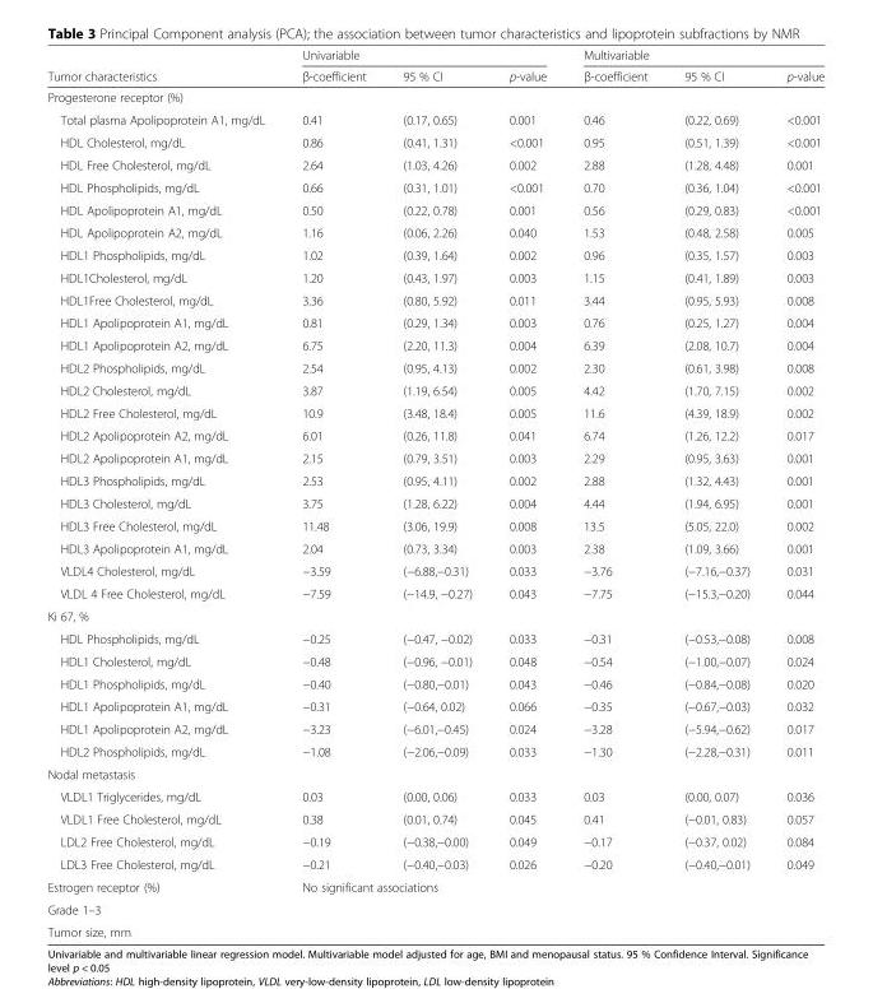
<table><thead><tr><td rowspan="2">Tumor characteristics</td><td colspan="3">Univariable</td><td colspan="3">Multivariable</td></tr><tr><td>β-coefficient</td><td>95 % CI</td><td>p-value</td><td>β-coefficient</td><td>95 % CI</td><td>p-value</td></tr></thead><tbody><tr><td colspan="7">Progesterone receptor (%)</td></tr><tr><td>Total plasma Apolipoprotein A1, mg/dL</td><td>0.41</td><td>(0.17, 0.65)</td><td>0.001</td><td>0.46</td><td>(0.22, 0.69)</td><td>&lt;0.001</td></tr><tr><td>HDL Cholesterol, mg/dL</td><td>0.86</td><td>(0.41, 1.31)</td><td>&lt;0.001</td><td>0.95</td><td>(0.51, 1.39)</td><td>&lt;0.001</td></tr><tr><td>HDL Free Cholesterol, mg/dL</td><td>2.64</td><td>(1.03, 4.26)</td><td>0.002</td><td>2.88</td><td>(1.28, 4.48)</td><td>0.001</td></tr><tr><td>HDL Phospholipids, mg/dL</td><td>0.66</td><td>(0.31, 1.01)</td><td>&lt;0.001</td><td>0.70</td><td>(0.36, 1.04)</td><td>&lt;0.001</td></tr><tr><td>HDL Apolipoprotein A1, mg/dL</td><td>0.50</td><td>(0.22, 0.78)</td><td>0.001</td><td>0.56</td><td>(0.29, 0.83)</td><td>&lt;0.001</td></tr><tr><td>HDL Apolipoprotein A2, mg/dL</td><td>1.16</td><td>(0.06, 2.26)</td><td>0.040</td><td>1.53</td><td>(0.48, 2.58)</td><td>0.005</td></tr><tr><td>HDL1 Phospholipids, mg/dL</td><td>1.02</td><td>(0.39, 1.64)</td><td>0.002</td><td>0.96</td><td>(0.35, 1.57)</td><td>0.003</td></tr><tr><td>HDL1Cholesterol, mg/dL</td><td>1.20</td><td>(0.43, 1.97)</td><td>0.003</td><td>1.15</td><td>(0.41, 1.89)</td><td>0.003</td></tr><tr><td>HDL1Free Cholesterol, mg/dL</td><td>3.36</td><td>(0.80, 5.92)</td><td>0.011</td><td>3.44</td><td>(0.95, 5.93)</td><td>0.008</td></tr><tr><td>HDL1 Apolipoprotein A1, mg/dL</td><td>0.81</td><td>(0.29, 1.34)</td><td>0.003</td><td>0.76</td><td>(0.25, 1.27)</td><td>0.004</td></tr><tr><td>HDL1 Apolipoprotein A2, mg/dL</td><td>6.75</td><td>(2.20, 11.3)</td><td>0.004</td><td>6.39</td><td>(2.08, 10.7)</td><td>0.004</td></tr><tr><td>HDL2 Phospholipids, mg/dL</td><td>2.54</td><td>(0.95, 4.13)</td><td>0.002</td><td>2.30</td><td>(0.61, 3.98)</td><td>0.008</td></tr><tr><td>HDL2 Cholesterol, mg/dL</td><td>3.87</td><td>(1.19, 6.54)</td><td>0.005</td><td>4.42</td><td>(1.70, 7.15)</td><td>0.002</td></tr><tr><td>HDL2 Free Cholesterol, mg/dL</td><td>10.9</td><td>(3.48, 18.4)</td><td>0.005</td><td>11.6</td><td>(4.39, 18.9)</td><td>0.002</td></tr><tr><td>HDL2 Apolipoprotein A2, mg/dL</td><td>6.01</td><td>(0.26, 11.8)</td><td>0.041</td><td>6.74</td><td>(1.26, 12.2)</td><td>0.017</td></tr><tr><td>HDL2 Apolipoprotein A1, mg/dL</td><td>2.15</td><td>(0.79, 3.51)</td><td>0.003</td><td>2.29</td><td>(0.95, 3.63)</td><td>0.001</td></tr><tr><td>HDL3 Phospholipids, mg/dL</td><td>2.53</td><td>(0.95, 4.11)</td><td>0.002</td><td>2.88</td><td>(1.32, 4.43)</td><td>0.001</td></tr><tr><td>HDL3 Cholesterol, mg/dL</td><td>3.75</td><td>(1.28, 6.22)</td><td>0.004</td><td>4.44</td><td>(1.94, 6.95)</td><td>0.001</td></tr><tr><td>HDL3 Free Cholesterol, mg/dL</td><td>11.48</td><td>(3.06, 19.9)</td><td>0.008</td><td>13.5</td><td>(5.05, 22.0)</td><td>0.002</td></tr><tr><td>HDL3 Apolipoprotein A1, mg/dL</td><td>2.04</td><td>(0.73, 3.34)</td><td>0.003</td><td>2.38</td><td>(1.09, 3.66)</td><td>0.001</td></tr><tr><td>VLDL4 Cholesterol, mg/dL</td><td>−3.59</td><td>(−6.88,−0.31)</td><td>0.033</td><td>−3.76</td><td>(−7.16,−0.37)</td><td>0.031</td></tr><tr><td>VLDL 4 Free Cholesterol, mg/dL</td><td>−7.59</td><td>(−14.9, −0.27)</td><td>0.043</td><td>−7.75</td><td>(−15.3,−0.20)</td><td>0.044</td></tr><tr><td colspan="7">Ki 67, %</td></tr><tr><td>HDL Phospholipids, mg/dL</td><td>−0.25</td><td>(−0.47, −0.02)</td><td>0.033</td><td>−0.31</td><td>(−0.53,−0.08)</td><td>0.008</td></tr><tr><td>HDL1 Cholesterol, mg/dL</td><td>−0.48</td><td>(−0.96, −0.01)</td><td>0.048</td><td>−0.54</td><td>(−1.00,−0.07)</td><td>0.024</td></tr><tr><td>HDL1 Phospholipids, mg/dL</td><td>−0.40</td><td>(−0.80,−0.01)</td><td>0.043</td><td>−0.46</td><td>(−0.84,−0.08)</td><td>0.020</td></tr><tr><td>HDL1 Apolipoprotein A1, mg/dL</td><td>−0.31</td><td>(−0.64, 0.02)</td><td>0.066</td><td>−0.35</td><td>(−0.67,−0.03)</td><td>0.032</td></tr><tr><td>HDL1 Apolipoprotein A2, mg/dL</td><td>−3.23</td><td>(−6.01,−0.45)</td><td>0.024</td><td>−3.28</td><td>(−5.94,−0.62)</td><td>0.017</td></tr><tr><td>HDL2 Phospholipids, mg/dL</td><td>−1.08</td><td>(−2.06,−0.09)</td><td>0.033</td><td>−1.30</td><td>(−2.28,−0.31)</td><td>0.011</td></tr><tr><td colspan="7">Nodal metastasis</td></tr><tr><td>VLDL1 Triglycerides, mg/dL</td><td>0.03</td><td>(0.00, 0.06)</td><td>0.033</td><td>0.03</td><td>(0.00, 0.07)</td><td>0.036</td></tr><tr><td>VLDL1 Free Cholesterol, mg/dL</td><td>0.38</td><td>(0.01, 0.74)</td><td>0.045</td><td>0.41</td><td>(−0.01, 0.83)</td><td>0.057</td></tr><tr><td>LDL2 Free Cholesterol, mg/dL</td><td>−0.19</td><td>(−0.38,−0.00)</td><td>0.049</td><td>−0.17</td><td>(−0.37, 0.02)</td><td>0.084</td></tr><tr><td>LDL3 Free Cholesterol, mg/dL</td><td>−0.21</td><td>(−0.40,−0.03)</td><td>0.026</td><td>−0.20</td><td>(−0.40,−0.01)</td><td>0.049</td></tr><tr><td>Estrogen receptor (%)</td><td rowspan="3" colspan="6">No significant associations</td></tr><tr><td>Grade 1–3</td></tr><tr><td>Tumor size, mm</td></tr></tbody></table>